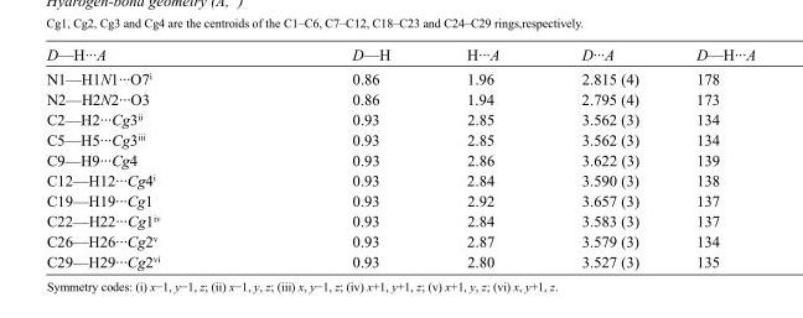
<table><tbody><tr><td>D—H···A</td><td>D—H</td><td>H···A</td><td>D···A</td><td>D—H···A</td></tr><tr><td>N1—H1N1···O7<sup>i</sup></td><td>0.86</td><td>1.96</td><td>2.815 (4)</td><td>178</td></tr><tr><td>N2—H2N2···O3</td><td>0.86</td><td>1.94</td><td>2.795 (4)</td><td>173</td></tr><tr><td>C2—H2···Cg3<sup>ii</sup></td><td>0.93</td><td>2.85</td><td>3.562 (3)</td><td>134</td></tr><tr><td>C5—H5···Cg3<sup>iii</sup></td><td>0.93</td><td>2.85</td><td>3.562 (3)</td><td>134</td></tr><tr><td>C9—H9···Cg4</td><td>0.93</td><td>2.86</td><td>3.622 (3)</td><td>139</td></tr><tr><td>C12—H12···Cg4<sup>i</sup></td><td>0.93</td><td>2.84</td><td>3.590 (3)</td><td>138</td></tr><tr><td>C19—H19···Cg1</td><td>0.93</td><td>2.92</td><td>3.657 (3)</td><td>137</td></tr><tr><td>C22—H22···Cg1<sup>iv</sup></td><td>0.93</td><td>2.84</td><td>3.583 (3)</td><td>137</td></tr><tr><td>C26—H26···Cg2<sup>v</sup></td><td>0.93</td><td>2.87</td><td>3.579 (3)</td><td>134</td></tr><tr><td>C29—H29···Cg2<sup>vi</sup></td><td>0.93</td><td>2.80</td><td>3.527 (3)</td><td>135</td></tr></tbody></table>